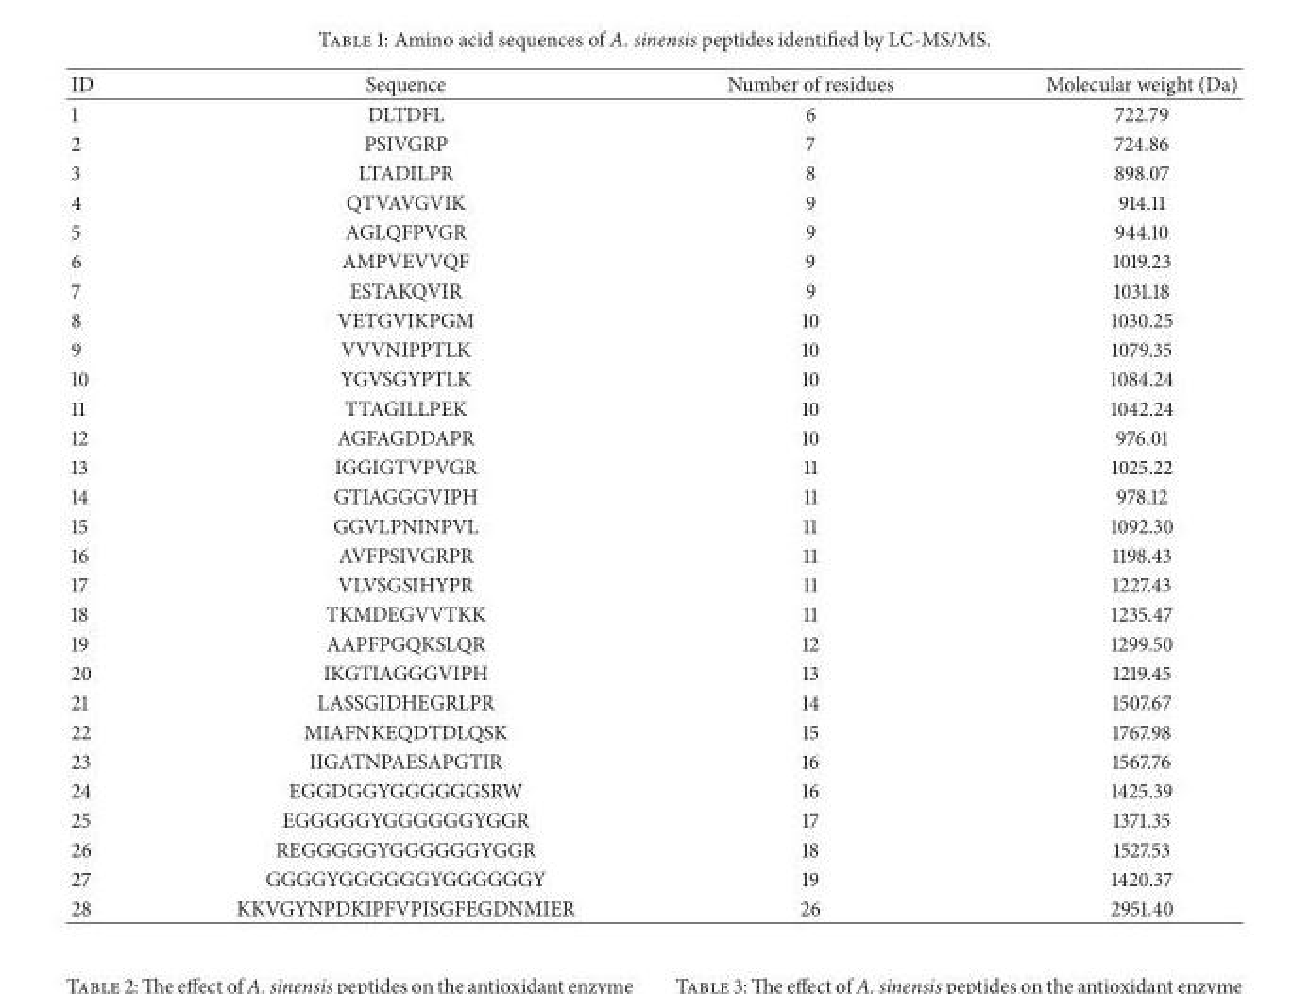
<table><thead><tr><td>ID</td><td>Sequence</td><td>Number of residues</td><td>Molecular weight (Da)</td></tr></thead><tbody><tr><td>1</td><td>DLTDFL</td><td>6</td><td>722.79</td></tr><tr><td>2</td><td>PSIVGRP</td><td>7</td><td>724.86</td></tr><tr><td>3</td><td>LTADILPR</td><td>8</td><td>898.07</td></tr><tr><td>4</td><td>QTVAVGVIK</td><td>9</td><td>914.11</td></tr><tr><td>5</td><td>AGLQFPVGR</td><td>9</td><td>944.10</td></tr><tr><td>6</td><td>AMPVEVVQF</td><td>9</td><td>1019.23</td></tr><tr><td>7</td><td>ESTAKQVIR</td><td>9</td><td>1031.18</td></tr><tr><td>8</td><td>VETGVIKPGM</td><td>10</td><td>1030.25</td></tr><tr><td>9</td><td>VVVNIPPTLK</td><td>10</td><td>1079.35</td></tr><tr><td>10</td><td>YGVSGYPTLK</td><td>10</td><td>1084.24</td></tr><tr><td>11</td><td>TTAGILLPEK</td><td>10</td><td>1042.24</td></tr><tr><td>12</td><td>AGFAGDDAPR</td><td>10</td><td>976.01</td></tr><tr><td>13</td><td>IGGIGTVPVGR</td><td>11</td><td>1025.22</td></tr><tr><td>14</td><td>GTIAGGGVIPH</td><td>11</td><td>978.12</td></tr><tr><td>15</td><td>GGVLPNINPVL</td><td>11</td><td>1092.30</td></tr><tr><td>16</td><td>AVFPSIVGRPR</td><td>11</td><td>1198.43</td></tr><tr><td>17</td><td>VLVSGSIHYPR</td><td>11</td><td>1227.43</td></tr><tr><td>18</td><td>TKMDEGVVTKK</td><td>11</td><td>1235.47</td></tr><tr><td>19</td><td>AAPFPGQKSLQR</td><td>12</td><td>1299.50</td></tr><tr><td>20</td><td>IKGTIAGGGVIPH</td><td>13</td><td>1219.45</td></tr><tr><td>21</td><td>LASSGIDHEGRLPR</td><td>14</td><td>1507.67</td></tr><tr><td>22</td><td>MIAFNKEQDTDLQSK</td><td>15</td><td>1767.98</td></tr><tr><td>23</td><td>IIGATNPAESAPGTIR</td><td>16</td><td>1567.76</td></tr><tr><td>24</td><td>EGGDGGYGGGGGGSRW</td><td>16</td><td>1425.39</td></tr><tr><td>25</td><td>EGGGGGYGGGGGGYGGR</td><td>17</td><td>1371.35</td></tr><tr><td>26</td><td>REGGGGGYGGGGGGYGGR</td><td>18</td><td>1527.53</td></tr><tr><td>27</td><td>GGGGYGGGGGGYGGGGGGY</td><td>19</td><td>1420.37</td></tr><tr><td>28</td><td>KKVGYNPDKIPFVPISGFEGDNMIER</td><td>26</td><td>2951.40</td></tr></tbody></table>